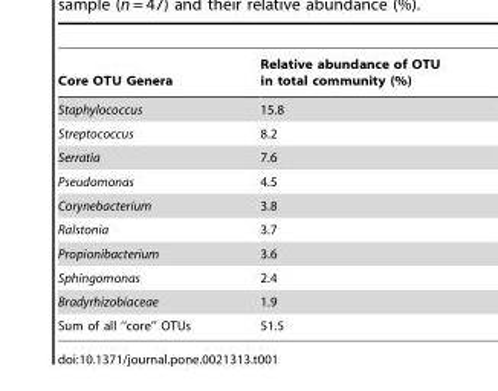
<table><thead><tr><td>Core OTU Genera</td><td>Relative abundance of OTU in total community (%)</td></tr></thead><tbody><tr><td>Staphylococcus</td><td>15.8</td></tr><tr><td>Streptococcus</td><td>8.2</td></tr><tr><td>Serratia</td><td>7.6</td></tr><tr><td>Pseudomonas</td><td>4.5</td></tr><tr><td>Corynebacterium</td><td>3.8</td></tr><tr><td>Ralstonia</td><td>3.7</td></tr><tr><td>Propionibacterium</td><td>3.6</td></tr><tr><td>Sphingomonas</td><td>2.4</td></tr><tr><td>Bradyrhizobiaceae</td><td>1.9</td></tr><tr><td>Sum of all ‘‘core’’ OTUs</td><td>51.5</td></tr></tbody></table>